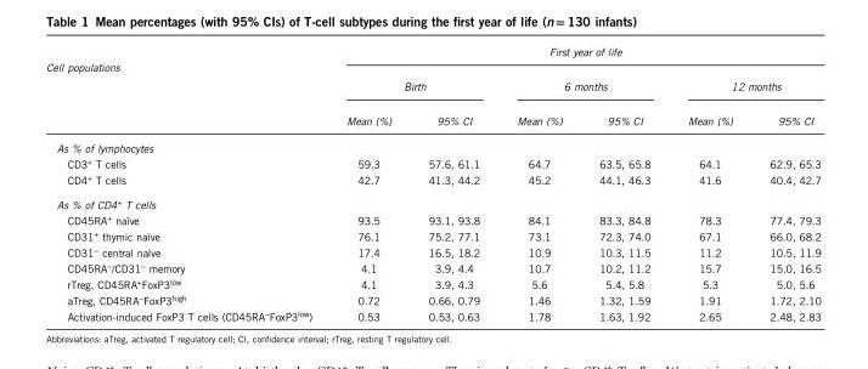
<table><thead><tr><td rowspan="3">Cell populations</td><td colspan="6">First year of life</td></tr><tr><td colspan="2">Birth</td><td colspan="2">6 months</td><td colspan="2">12 months</td></tr><tr><td>Mean (%)</td><td>95% CI</td><td>Mean (%)</td><td>95% CI</td><td>Mean (%)</td><td>95% CI</td></tr></thead><tbody><tr><td colspan="7">As % of lymphocytes</td></tr><tr><td>CD3<sup>+</sup> T cells</td><td>59.3</td><td>57.6, 61.1</td><td>64.7</td><td>63.5, 65.8</td><td>64.1</td><td>62.9, 65.3</td></tr><tr><td>CD4<sup>+</sup> T cells</td><td>42.7</td><td>41.3, 44.2</td><td>45.2</td><td>44.1, 46.3</td><td>41.6</td><td>40.4, 42.7</td></tr><tr><td colspan="7">As % of CD4<sup>+</sup> T cells</td></tr><tr><td>CD45RA<sup>+</sup> naïve</td><td>93.5</td><td>93.1, 93.8</td><td>84.1</td><td>83.3, 84.8</td><td>78.3</td><td>77.4, 79.3</td></tr><tr><td>CD31<sup>+</sup> thymic naïve</td><td>76.1</td><td>75.2, 77.1</td><td>73.1</td><td>72.3, 74.0</td><td>67.1</td><td>66.0, 68.2</td></tr><tr><td>CD31<sup>−</sup> central naïve</td><td>17.4</td><td>16.5, 18.2</td><td>10.9</td><td>10.3, 11.5</td><td>11.2</td><td>10.5, 11.9</td></tr><tr><td>CD45RA<sup>−</sup>/CD31<sup>−</sup> memory</td><td>4.1</td><td>3.9, 4.4</td><td>10.7</td><td>10.2, 11.2</td><td>15.7</td><td>15.0, 16.5</td></tr><tr><td>rTreg, CD45RA<sup>+</sup>FoxP3<sup>low</sup></td><td>4.1</td><td>3.9, 4.3</td><td>5.6</td><td>5.4, 5.8</td><td>5.3</td><td>5.0, 5.6</td></tr><tr><td>aTreg, CD45RA<sup>−</sup>FoxP3<sup>high</sup></td><td>0.72</td><td>0.66, 0.79</td><td>1.46</td><td>1.32, 1.59</td><td>1.91</td><td>1.72, 2.10</td></tr><tr><td>Activation-induced FoxP3 T cells (CD45RA<sup>−</sup>FoxP3<sup>low</sup>)</td><td>0.53</td><td>0.53, 0.63</td><td>1.78</td><td>1.63, 1.92</td><td>2.65</td><td>2.48, 2.83</td></tr></tbody></table>